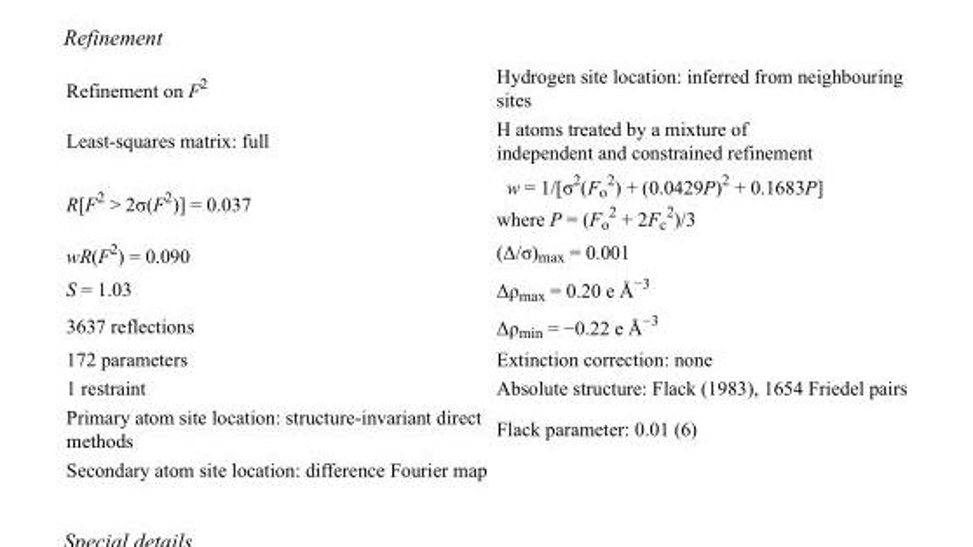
<table><tbody><tr><td>Refinement on F<sup>2</sup></td><td>Hydrogen site location: inferred from neighbouring sites</td></tr><tr><td>Least-squares matrix: full</td><td>H atoms treated by a mixture of independent and constrained refinement</td></tr><tr><td>R[F<sup>2</sup> &gt; 2σ(F<sup>2</sup>)] = 0.037</td><td>w = 1/[σ<sup>2</sup>(F<sub>o</sub> <sup>2</sup>) + (0.0429P)<sup>2</sup> + 0.1683P] where P = (F<sub>o</sub> <sup>2</sup> + 2F<sub>c</sub> <sup>2</sup>)/3</td></tr><tr><td>wR(F<sup>2</sup>) = 0.090</td><td>(Δ/σ)<sub>max</sub> = 0.001</td></tr><tr><td>S = 1.03</td><td>Δρ<sub>max</sub> = 0.20 e Å<sup>−3</sup></td></tr><tr><td>3637 reflections</td><td>Δρ<sub>min</sub> = −0.22 e Å<sup>−3</sup></td></tr><tr><td>172 parameters</td><td>Extinction correction: none</td></tr><tr><td>1 restraint</td><td>Absolute structure: Flack (1983), 1654 Friedel pairs</td></tr><tr><td>Primary atom site location: structure-invariant direct methods</td><td>Flack parameter: 0.01 (6)</td></tr><tr><td>Secondary atom site location: difference Fourier map</td><td></td></tr></tbody></table>